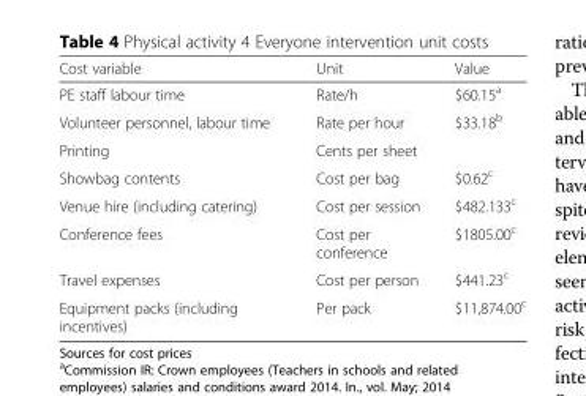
<table><thead><tr><td>Cost variable</td><td>Unit</td><td>Value</td></tr></thead><tbody><tr><td>PE staff labour time</td><td>Rate/h</td><td>$60.15<sup>a</sup></td></tr><tr><td>Volunteer personnel, labour time</td><td>Rate per hour</td><td>$33.18<sup>b</sup></td></tr><tr><td>Printing</td><td>Cents per sheet</td><td></td></tr><tr><td>Showbag contents</td><td>Cost per bag</td><td>$0.62<sup>c</sup></td></tr><tr><td>Venue hire (including catering)</td><td>Cost per session</td><td>$482.133<sup>c</sup></td></tr><tr><td>Conference fees</td><td>Cost per conference</td><td>$1805.00<sup>c</sup></td></tr><tr><td>Travel expenses</td><td>Cost per person</td><td>$441.23<sup>c</sup></td></tr><tr><td>Equipment packs (including incentives)</td><td>Per pack</td><td>$11,874.00<sup>c</sup></td></tr></tbody></table>